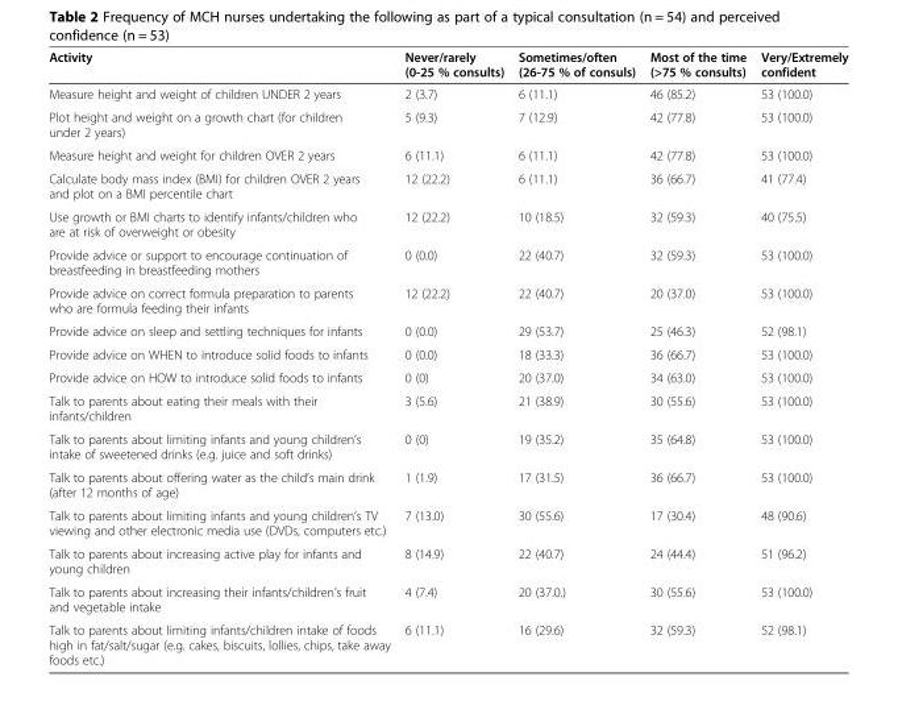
<table><thead><tr><td>Activity</td><td>Never/rarely (0-25 % consults)</td><td>Sometimes/often (26-75 % of consuls)</td><td>Most of the time (&gt;75 % consults)</td><td>Very/Extremely confident</td></tr></thead><tbody><tr><td>Measure height and weight of children UNDER 2 years</td><td>2 (3.7)</td><td>6 (11.1)</td><td>46 (85.2)</td><td>53 (100.0)</td></tr><tr><td>Plot height and weight on a growth chart (for children under 2 years)</td><td>5 (9.3)</td><td>7 (12.9)</td><td>42 (77.8)</td><td>53 (100.0)</td></tr><tr><td>Measure height and weight for children OVER 2 years</td><td>6 (11.1)</td><td>6 (11.1)</td><td>42 (77.8)</td><td>53 (100.0)</td></tr><tr><td>Calculate body mass index (BMI) for children OVER 2 years and plot on a BMI percentile chart</td><td>12 (22.2)</td><td>6 (11.1)</td><td>36 (66.7)</td><td>41 (77.4)</td></tr><tr><td>Use growth or BMI charts to identify infants/children who are at risk of overweight or obesity</td><td>12 (22.2)</td><td>10 (18.5)</td><td>32 (59.3)</td><td>40 (75.5)</td></tr><tr><td>Provide advice or support to encourage continuation of breastfeeding in breastfeeding mothers</td><td>0 (0.0)</td><td>22 (40.7)</td><td>32 (59.3)</td><td>53 (100.0)</td></tr><tr><td>Provide advice on correct formula preparation to parents who are formula feeding their infants</td><td>12 (22.2)</td><td>22 (40.7)</td><td>20 (37.0)</td><td>53 (100.0)</td></tr><tr><td>Provide advice on sleep and settling techniques for infants</td><td>0 (0.0)</td><td>29 (53.7)</td><td>25 (46.3)</td><td>52 (98.1)</td></tr><tr><td>Provide advice on WHEN to introduce solid foods to infants</td><td>0 (0.0)</td><td>18 (33.3)</td><td>36 (66.7)</td><td>53 (100.0)</td></tr><tr><td>Provide advice on HOW to introduce solid foods to infants</td><td>0 (0)</td><td>20 (37.0)</td><td>34 (63.0)</td><td>53 (100.0)</td></tr><tr><td>Talk to parents about eating their meals with their infants/children</td><td>3 (5.6)</td><td>21 (38.9)</td><td>30 (55.6)</td><td>53 (100.0)</td></tr><tr><td>Talk to parents about limiting infants and young children’s intake of sweetened drinks (e.g. juice and soft drinks)</td><td>0 (0)</td><td>19 (35.2)</td><td>35 (64.8)</td><td>53 (100.0)</td></tr><tr><td>Talk to parents about offering water as the child’s main drink (after 12 months of age)</td><td>1 (1.9)</td><td>17 (31.5)</td><td>36 (66.7)</td><td>53 (100.0)</td></tr><tr><td>Talk to parents about limiting infants and young children’s TV viewing and other electronic media use (DVDs, computers etc.)</td><td>7 (13.0)</td><td>30 (55.6)</td><td>17 (30.4)</td><td>48 (90.6)</td></tr><tr><td>Talk to parents about increasing active play for infants and young children</td><td>8 (14.9)</td><td>22 (40.7)</td><td>24 (44.4)</td><td>51 (96.2)</td></tr><tr><td>Talk to parents about increasing their infants/children’s fruit and vegetable intake</td><td>4 (7.4)</td><td>20 (37.0.)</td><td>30 (55.6)</td><td>53 (100.0)</td></tr><tr><td>Talk to parents about limiting infants/children intake of foods high in fat/salt/sugar (e.g. cakes, biscuits, lollies, chips, take away foods etc.)</td><td>6 (11.1)</td><td>16 (29.6)</td><td>32 (59.3)</td><td>52 (98.1)</td></tr></tbody></table>